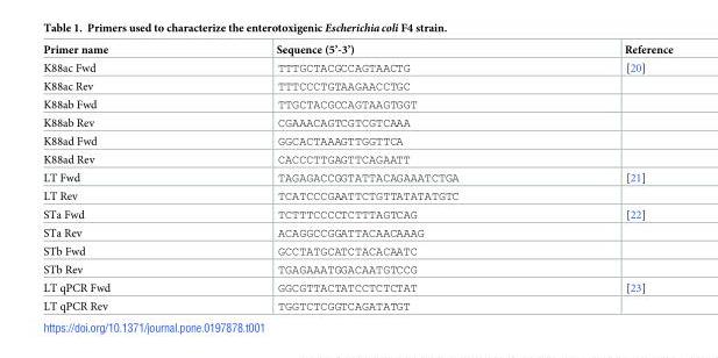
<table><thead><tr><td>Primer name</td><td>Sequence (5’-3’)</td><td>Reference</td></tr></thead><tbody><tr><td>K88ac Fwd</td><td>TTTGCTACGCCAGTAACTG</td><td>[20]</td></tr><tr><td>K88ac Rev</td><td>TTTCCCTGTAAGAACCTGC</td><td></td></tr><tr><td>K88ab Fwd</td><td>TTGCTACGCCAGTAAGTGGT</td><td></td></tr><tr><td>K88ab Rev</td><td>CGAAACAGTCGTCGTCAAA</td><td></td></tr><tr><td>K88ad Fwd</td><td>GGCACTAAAGTTGGTTCA</td><td></td></tr><tr><td>K88ad Rev</td><td>CACCCTTGAGTTCAGAATT</td><td></td></tr><tr><td>LT Fwd</td><td>TAGAGACCGGTATTACAGAAATCTGA</td><td>[21]</td></tr><tr><td>LT Rev</td><td>TCATCCCGAATTCTGTTATATATGTC</td><td></td></tr><tr><td>STa Fwd</td><td>TCTTTCCCCTCTTTAGTCAG</td><td>[22]</td></tr><tr><td>STa Rev</td><td>ACAGGCCGGATTACAACAAAG</td><td></td></tr><tr><td>STb Fwd</td><td>GCCTATGCATCTACACAATC</td><td></td></tr><tr><td>STb Rev</td><td>TGAGAAATGGACAATGTCCG</td><td></td></tr><tr><td>LT qPCR Fwd</td><td>GGCGTTACTATCCTCTCTAT</td><td>[23]</td></tr><tr><td>LT qPCR Rev</td><td>TGGTCTCGGTCAGATATGT</td><td></td></tr></tbody></table>